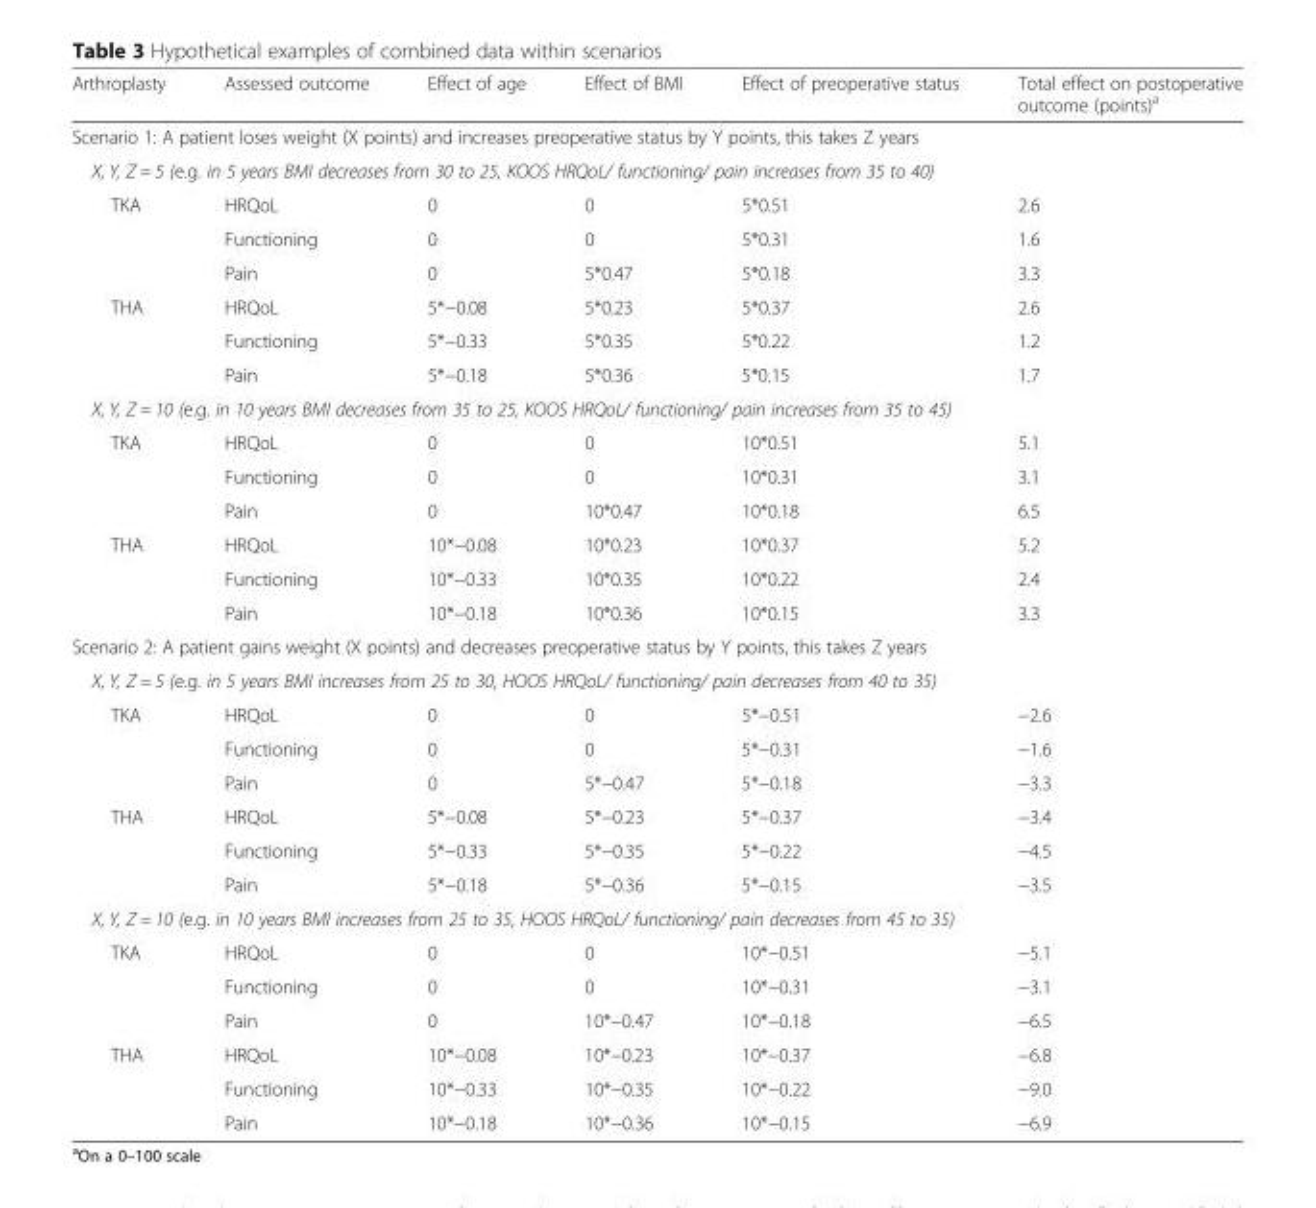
<table><thead><tr><td>Arthroplasty</td><td>Assessed outcome</td><td>Effect of age</td><td>Effect of BMI</td><td>Effect of preoperative status</td><td>Total effect on postoperative outcome (points)<sup>a</sup></td></tr></thead><tbody><tr><td colspan="6">Scenario 1: A patient loses weight (X points) and increases preoperative status by Y points, this takes Z years</td></tr><tr><td colspan="6">X, Y, Z = 5 (e.g. in 5 years BMI decreases from 30 to 25, KOOS HRQoL/ functioning/ pain increases from 35 to 40)</td></tr><tr><td rowspan="3">TKA</td><td>HRQoL</td><td>0</td><td>0</td><td>5*0.51</td><td>2.6</td></tr><tr><td>Functioning</td><td>0</td><td>0</td><td>5*0.31</td><td>1.6</td></tr><tr><td>Pain</td><td>0</td><td>5*0.47</td><td>5*0.18</td><td>3.3</td></tr><tr><td rowspan="3">THA</td><td>HRQoL</td><td>5*−0.08</td><td>5*0.23</td><td>5*0.37</td><td>2.6</td></tr><tr><td>Functioning</td><td>5*−0.33</td><td>5*0.35</td><td>5*0.22</td><td>1.2</td></tr><tr><td>Pain</td><td>5*−0.18</td><td>5*0.36</td><td>5*0.15</td><td>1.7</td></tr><tr><td colspan="6">X, Y, Z = 10 (e.g. in 10 years BMI decreases from 35 to 25, KOOS HRQoL/ functioning/ pain increases from 35 to 45)</td></tr><tr><td rowspan="3">TKA</td><td>HRQoL</td><td>0</td><td>0</td><td>10*0.51</td><td>5.1</td></tr><tr><td>Functioning</td><td>0</td><td>0</td><td>10*0.31</td><td>3.1</td></tr><tr><td>Pain</td><td>0</td><td>10*0.47</td><td>10*0.18</td><td>6.5</td></tr><tr><td rowspan="3">THA</td><td>HRQoL</td><td>10*−0.08</td><td>10*0.23</td><td>10*0.37</td><td>5.2</td></tr><tr><td>Functioning</td><td>10*−0.33</td><td>10*0.35</td><td>10*0.22</td><td>2.4</td></tr><tr><td>Pain</td><td>10*−0.18</td><td>10*0.36</td><td>10*0.15</td><td>3.3</td></tr><tr><td colspan="6">Scenario 2: A patient gains weight (X points) and decreases preoperative status by Y points, this takes Z years</td></tr><tr><td colspan="6">X, Y, Z = 5 (e.g. in 5 years BMI increases from 25 to 30, HOOS HRQoL/ functioning/ pain decreases from 40 to 35)</td></tr><tr><td rowspan="3">TKA</td><td>HRQoL</td><td>0</td><td>0</td><td>5*−0.51</td><td>−2.6</td></tr><tr><td>Functioning</td><td>0</td><td>0</td><td>5*−0.31</td><td>−1.6</td></tr><tr><td>Pain</td><td>0</td><td>5*−0.47</td><td>5*−0.18</td><td>−3.3</td></tr><tr><td rowspan="3">THA</td><td>HRQoL</td><td>5*−0.08</td><td>5*−0.23</td><td>5*−0.37</td><td>−3.4</td></tr><tr><td>Functioning</td><td>5*−0.33</td><td>5*−0.35</td><td>5*−0.22</td><td>−4.5</td></tr><tr><td>Pain</td><td>5*−0.18</td><td>5*−0.36</td><td>5*−0.15</td><td>−3.5</td></tr><tr><td colspan="6">X, Y, Z = 10 (e.g. in 10 years BMI increases from 25 to 35, HOOS HRQoL/ functioning/ pain decreases from 45 to 35)</td></tr><tr><td rowspan="3">TKA</td><td>HRQoL</td><td>0</td><td>0</td><td>10*−0.51</td><td>−5.1</td></tr><tr><td>Functioning</td><td>0</td><td>0</td><td>10*−0.31</td><td>−3.1</td></tr><tr><td>Pain</td><td>0</td><td>10*−0.47</td><td>10*−0.18</td><td>−6.5</td></tr><tr><td rowspan="3">THA</td><td>HRQoL</td><td>10*−0.08</td><td>10*−0.23</td><td>10*−0.37</td><td>−6.8</td></tr><tr><td>Functioning</td><td>10*−0.33</td><td>10*−0.35</td><td>10*−0.22</td><td>−9.0</td></tr><tr><td>Pain</td><td>10*−0.18</td><td>10*−0.36</td><td>10*−0.15</td><td>−6.9</td></tr></tbody></table>